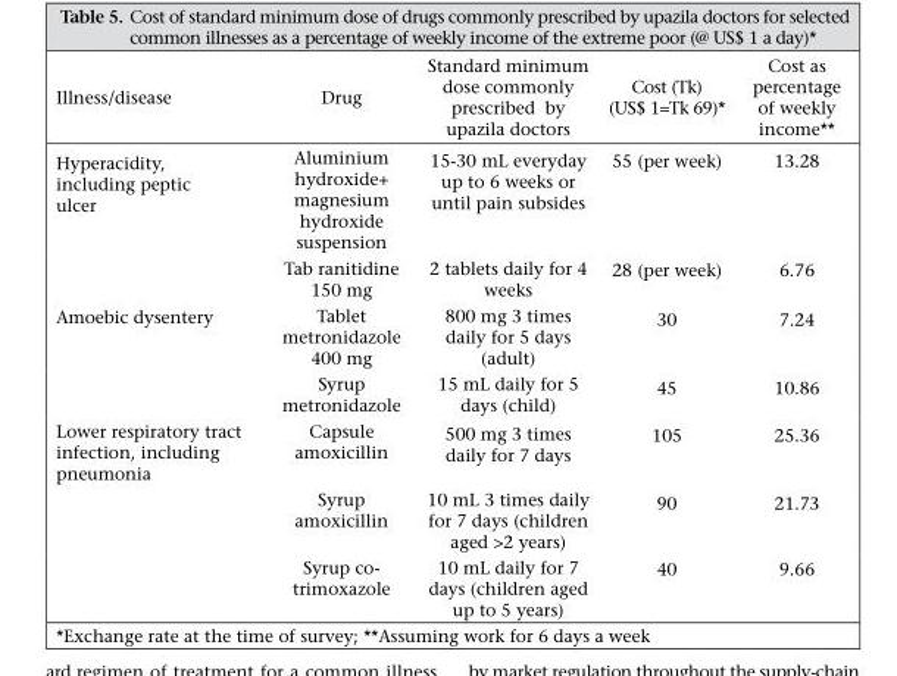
<table><thead><tr><td>Illness/disease</td><td>Drug</td><td>Standard minimum dose commonly prescribed by upazila doctors</td><td>Cost (Tk) (US$ 1=Tk 69)*</td><td>Cost as percentage of weekly income**</td></tr></thead><tbody><tr><td rowspan="2">Hyperacidity, including peptic ulcer</td><td>Aluminium hydroxide+ magnesium hydroxide suspension</td><td>15-30 mL everyday up to 6 weeks or until pain subsides</td><td>55 (per week)</td><td>13.28</td></tr><tr><td>Tab ranitidine 150 mg</td><td>2 tablets daily for 4 weeks</td><td>28 (per week)</td><td>6.76</td></tr><tr><td rowspan="2">Amoebic dysentery</td><td>Tablet metronidazole 400 mg</td><td>800 mg 3 times daily for 5 days (adult)</td><td>30</td><td>7.24</td></tr><tr><td>Syrup metronidazole</td><td>15 mL daily for 5 days (child)</td><td>45</td><td>10.86</td></tr><tr><td rowspan="3">Lower respiratory tract infection, including pneumonia</td><td>Capsule amoxicillin</td><td>500 mg 3 times daily for 7 days</td><td>105</td><td>25.36</td></tr><tr><td>Syrup amoxicillin</td><td>10 mL 3 times daily for 7 days (children aged &gt;2 years)</td><td>90</td><td>21.73</td></tr><tr><td>Syrup co- trimoxazole</td><td>10 mL daily for 7 days (children aged up to 5 years)</td><td>40</td><td>9.66</td></tr></tbody></table>